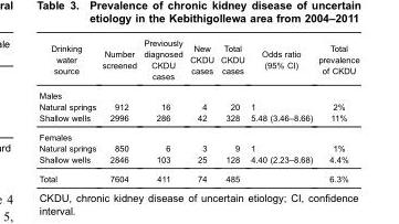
<table><thead><tr><td>Drinking water source</td><td>Number screened</td><td>Previously diagnosed CKDU cases</td><td>New CKDU cases</td><td>Total CKDU cases</td><td>Odds ratio (95% CI)</td><td>Total prevalence of CKDU</td></tr></thead><tbody><tr><td colspan="7">Males</td></tr><tr><td>Natural springs</td><td>912</td><td>16</td><td>4</td><td>20</td><td>1</td><td>2%</td></tr><tr><td>Shallow wells</td><td>2996</td><td>286</td><td>42</td><td>328</td><td>5.48 (3.46–8.66)</td><td>11%</td></tr><tr><td colspan="7">Females</td></tr><tr><td>Natural springs</td><td>850</td><td>6</td><td>3</td><td>9</td><td>1</td><td>1%</td></tr><tr><td>Shallow wells</td><td>2846</td><td>103</td><td>25</td><td>128</td><td>4.40 (2.23–8.68)</td><td>4.4%</td></tr><tr><td>Total</td><td>7604</td><td>411</td><td>74</td><td>485</td><td></td><td>6.3%</td></tr></tbody></table>